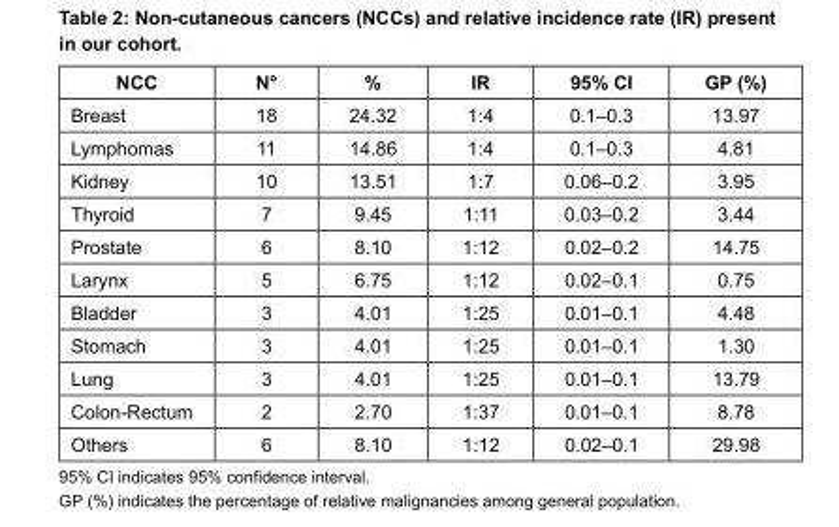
<table><thead><tr><td>NCC</td><td>N°</td><td>%</td><td>IR</td><td>95% CI</td><td>GP (%)</td></tr></thead><tbody><tr><td>Breast</td><td>18</td><td>24.32</td><td>1:4</td><td>0.1–0.3</td><td>13.97</td></tr><tr><td>Lymphomas</td><td>11</td><td>14.86</td><td>1:4</td><td>0.1–0.3</td><td>4.81</td></tr><tr><td>Kidney</td><td>10</td><td>13.51</td><td>1:7</td><td>0.06–0.2</td><td>3.95</td></tr><tr><td>Thyroid</td><td>7</td><td>9.45</td><td>1:11</td><td>0.03–0.2</td><td>3.44</td></tr><tr><td>Prostate</td><td>6</td><td>8.10</td><td>1:12</td><td>0.02–0.2</td><td>14.75</td></tr><tr><td>Larynx</td><td>5</td><td>6.75</td><td>1:12</td><td>0.02–0.1</td><td>0.75</td></tr><tr><td>Bladder</td><td>3</td><td>4.01</td><td>1:25</td><td>0.01–0.1</td><td>4.48</td></tr><tr><td>Stomach</td><td>3</td><td>4.01</td><td>1:25</td><td>0.01–0.1</td><td>1.30</td></tr><tr><td>Lung</td><td>3</td><td>4.01</td><td>1:25</td><td>0.01–0.1</td><td>13.79</td></tr><tr><td>Colon-Rectum</td><td>2</td><td>2.70</td><td>1:37</td><td>0.01–0.1</td><td>8.78</td></tr><tr><td>Others</td><td>6</td><td>8.10</td><td>1:12</td><td>0.02–0.1</td><td>29.98</td></tr></tbody></table>